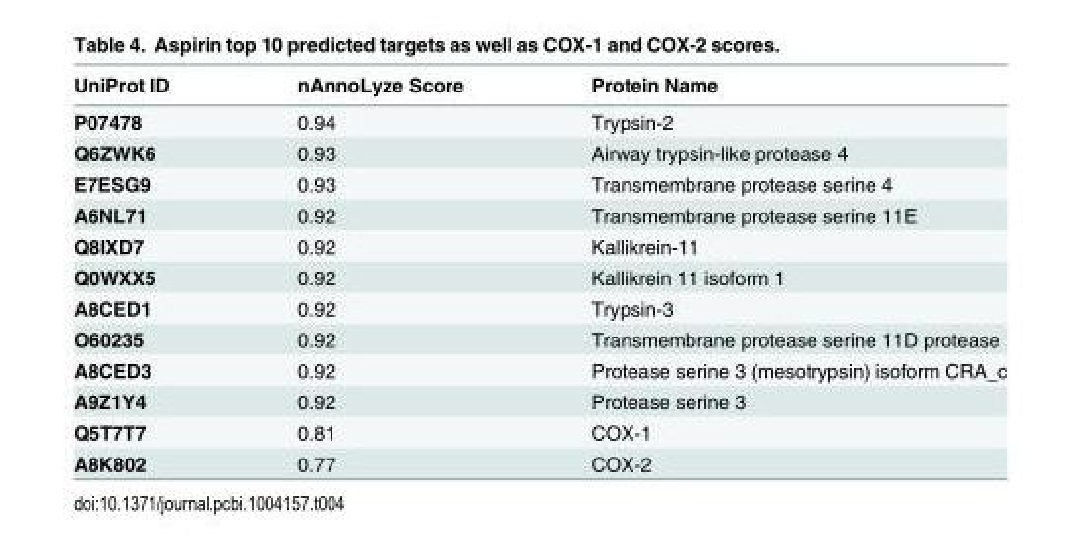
<table><thead><tr><td>UniProt ID</td><td>nAnnoLyze Score</td><td>Protein Name</td></tr></thead><tbody><tr><td>P07478</td><td>0.94</td><td>Trypsin-2</td></tr><tr><td>Q6ZWK6</td><td>0.93</td><td>Airway trypsin-like protease 4</td></tr><tr><td>E7ESG9</td><td>0.93</td><td>Transmembrane protease serine 4</td></tr><tr><td>A6NL71</td><td>0.92</td><td>Transmembrane protease serine 11E</td></tr><tr><td>Q8IXD7</td><td>0.92</td><td>Kallikrein-11</td></tr><tr><td>Q0WXX5</td><td>0.92</td><td>Kallikrein 11 isoform 1</td></tr><tr><td>A8CED1</td><td>0.92</td><td>Trypsin-3</td></tr><tr><td>O60235</td><td>0.92</td><td>Transmembrane protease serine 11D protease</td></tr><tr><td>A8CED3</td><td>0.92</td><td>Protease serine 3 (mesotrypsin) isoform CRA_c</td></tr><tr><td>A9Z1Y4</td><td>0.92</td><td>Protease serine 3</td></tr><tr><td>Q5T7T7</td><td>0.81</td><td>COX-1</td></tr><tr><td>A8K802</td><td>0.77</td><td>COX-2</td></tr></tbody></table>